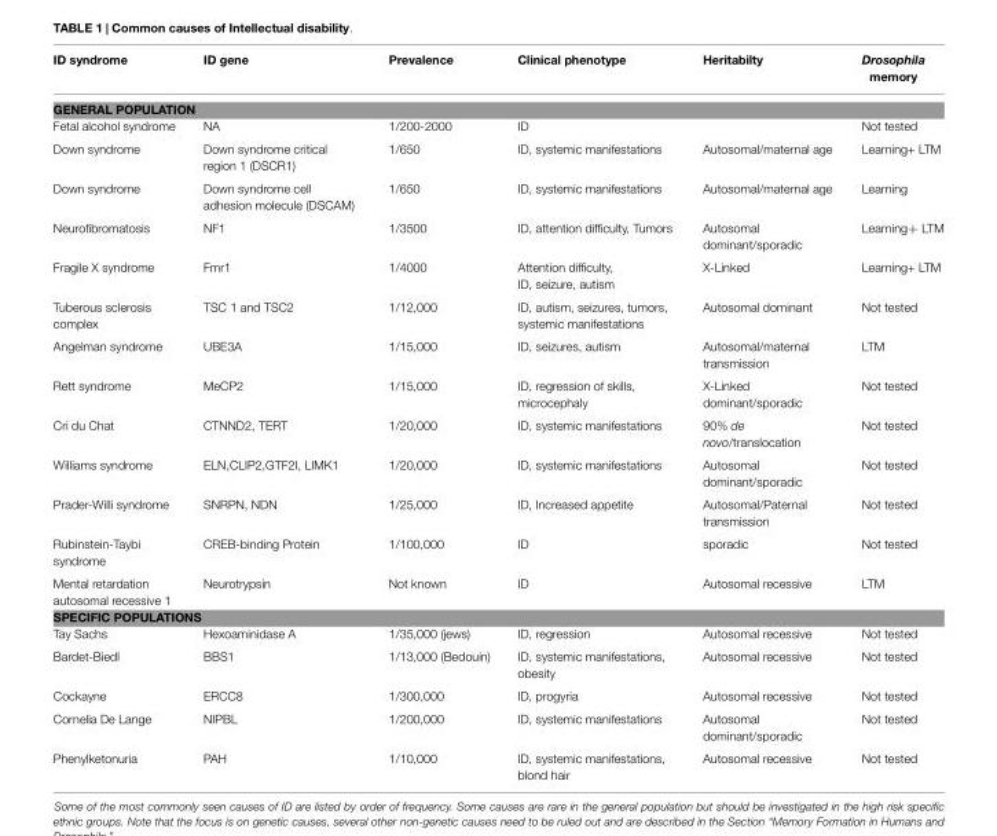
<table><thead><tr><td>ID syndrome</td><td>ID gene</td><td>Prevalence</td><td>Clinical phenotype</td><td>Heritabilty</td><td>Drosophila memory</td></tr></thead><tbody><tr><td colspan="6">GENERAL POPULATION</td></tr><tr><td>Fetal alcohol syndrome</td><td>NA</td><td>1/200-2000</td><td>ID</td><td></td><td>Not tested</td></tr><tr><td>Down syndrome</td><td>Down syndrome critical region 1 (DSCR1)</td><td>1/650</td><td>ID, systemic manifestations</td><td>Autosomal/maternal age</td><td>Learning+ LTM</td></tr><tr><td>Down syndrome</td><td>Down syndrome cell adhesion molecule (DSCAM)</td><td>1/650</td><td>ID, systemic manifestations</td><td>Autosomal/maternal age</td><td>Learning</td></tr><tr><td>Neurofibromatosis</td><td>NF1</td><td>1/3500</td><td>ID, attention difficulty, Tumors</td><td>Autosomal dominant/sporadic</td><td>Learning+ LTM</td></tr><tr><td>Fragile X syndrome</td><td>Fmr1</td><td>1/4000</td><td>Attention difficulty, ID, seizure, autism</td><td>X-Linked</td><td>Learning+ LTM</td></tr><tr><td>Tuberous sclerosis complex</td><td>TSC 1 and TSC2</td><td>1/12,000</td><td>ID, autism, seizures, tumors, systemic manifestations</td><td>Autosomal dominant</td><td>Not tested</td></tr><tr><td>Angelman syndrome</td><td>UBE3A</td><td>1/15,000</td><td>ID, seizures, autism</td><td>Autosomal/maternal transmission</td><td>LTM</td></tr><tr><td>Rett syndrome</td><td>MeCP2</td><td>1/15,000</td><td>ID, regression of skills, microcephaly</td><td>X-Linked dominant/sporadic</td><td>Not tested</td></tr><tr><td>Cri du Chat</td><td>CTNND2, TERT</td><td>1/20,000</td><td>ID, systemic manifestations</td><td>90% de novo/translocation</td><td>Not tested</td></tr><tr><td>Williams syndrome</td><td>ELN,CLIP2,GTF2I, LIMK1</td><td>1/20,000</td><td>ID, systemic manifestations</td><td>Autosomal dominant/sporadic</td><td>Not tested</td></tr><tr><td>Prader-Willi syndrome</td><td>SNRPN, NDN</td><td>1/25,000</td><td>ID, Increased appetite</td><td>Autosomal/Paternal transmission</td><td>Not tested</td></tr><tr><td>Rubinstein-Taybi syndrome</td><td>CREB-binding Protein</td><td>1/100,000</td><td>ID</td><td>sporadic</td><td>Not tested</td></tr><tr><td>Mental retardation autosomal recessive 1</td><td>Neurotrypsin</td><td>Not known</td><td>ID</td><td>Autosomal recessive</td><td>LTM</td></tr><tr><td colspan="6">SPECIFIC POPULATIONS</td></tr><tr><td>Tay Sachs</td><td>Hexoaminidase A</td><td>1/35,000 (jews)</td><td>ID, regression</td><td>Autosomal recessive</td><td>Not tested</td></tr><tr><td>Bardet-Biedl</td><td>BBS1</td><td>1/13,000 (Bedouin)</td><td>ID, systemic manifestations, obesity</td><td>Autosomal recessive</td><td>Not tested</td></tr><tr><td>Cockayne</td><td>ERCC8</td><td>1/300,000</td><td>ID, progyria</td><td>Autosomal recessive</td><td>Not tested</td></tr><tr><td>Cornelia De Lange</td><td>NIPBL</td><td>1/200,000</td><td>ID, systemic manifestations</td><td>Autosomal dominant/sporadic</td><td>Not tested</td></tr><tr><td>Phenylketonuria</td><td>PAH</td><td>1/10,000</td><td>ID, systemic manifestations, blond hair</td><td>Autosomal recessive</td><td>Not tested</td></tr></tbody></table>